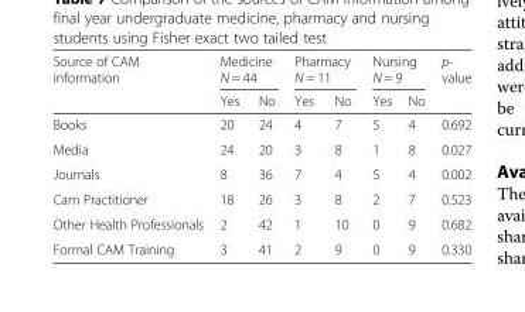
<table><thead><tr><td rowspan="2">Source of CAM information</td><td colspan="2">Medicine N = 44</td><td colspan="2">Pharmacy N = 11</td><td colspan="2">Nursing N = 9</td><td rowspan="2">p- value</td></tr><tr><td>Yes</td><td>No</td><td>Yes</td><td>No</td><td>Yes</td><td>No</td></tr></thead><tbody><tr><td>Books</td><td>20</td><td>24</td><td>4</td><td>7</td><td>5</td><td>4</td><td>0.692</td></tr><tr><td>Media</td><td>24</td><td>20</td><td>3</td><td>8</td><td>1</td><td>8</td><td>0.027</td></tr><tr><td>Journals</td><td>8</td><td>36</td><td>7</td><td>4</td><td>5</td><td>4</td><td>0.002</td></tr><tr><td>Cam Practitioner</td><td>18</td><td>26</td><td>3</td><td>8</td><td>2</td><td>7</td><td>0.523</td></tr><tr><td>Other Health Professionals</td><td>2</td><td>42</td><td>1</td><td>10</td><td>0</td><td>9</td><td>0.682</td></tr><tr><td>Formal CAM Training</td><td>3</td><td>41</td><td>2</td><td>9</td><td>0</td><td>9</td><td>0.330</td></tr></tbody></table>